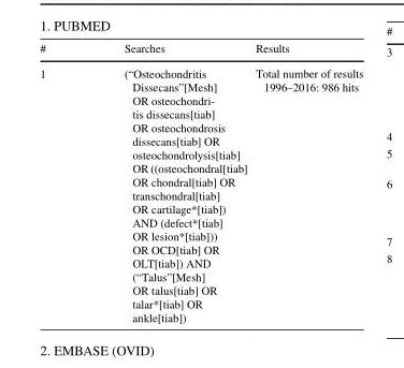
<table><thead><tr><td>#</td><td>Searches</td><td>Results</td></tr></thead><tbody><tr><td>1</td><td>(“Osteochondritis Dissecans”[Mesh] OR osteochondri- tis dissecans[tiab] OR osteochondrosis dissecans[tiab] OR osteochondrolysis[tiab] OR ((osteochondral[tiab] OR chondral[tiab] OR transchondral[tiab] OR cartilage*[tiab]) AND (defect*[tiab] OR lesion*[tiab])) OR OCD[tiab] OR OLT[tiab]) AND (“Talus”[Mesh] OR talus[tiab] OR talar*[tiab] OR ankle[tiab])</td><td>Total number of results 1996–2016: 986 hits</td></tr></tbody></table>